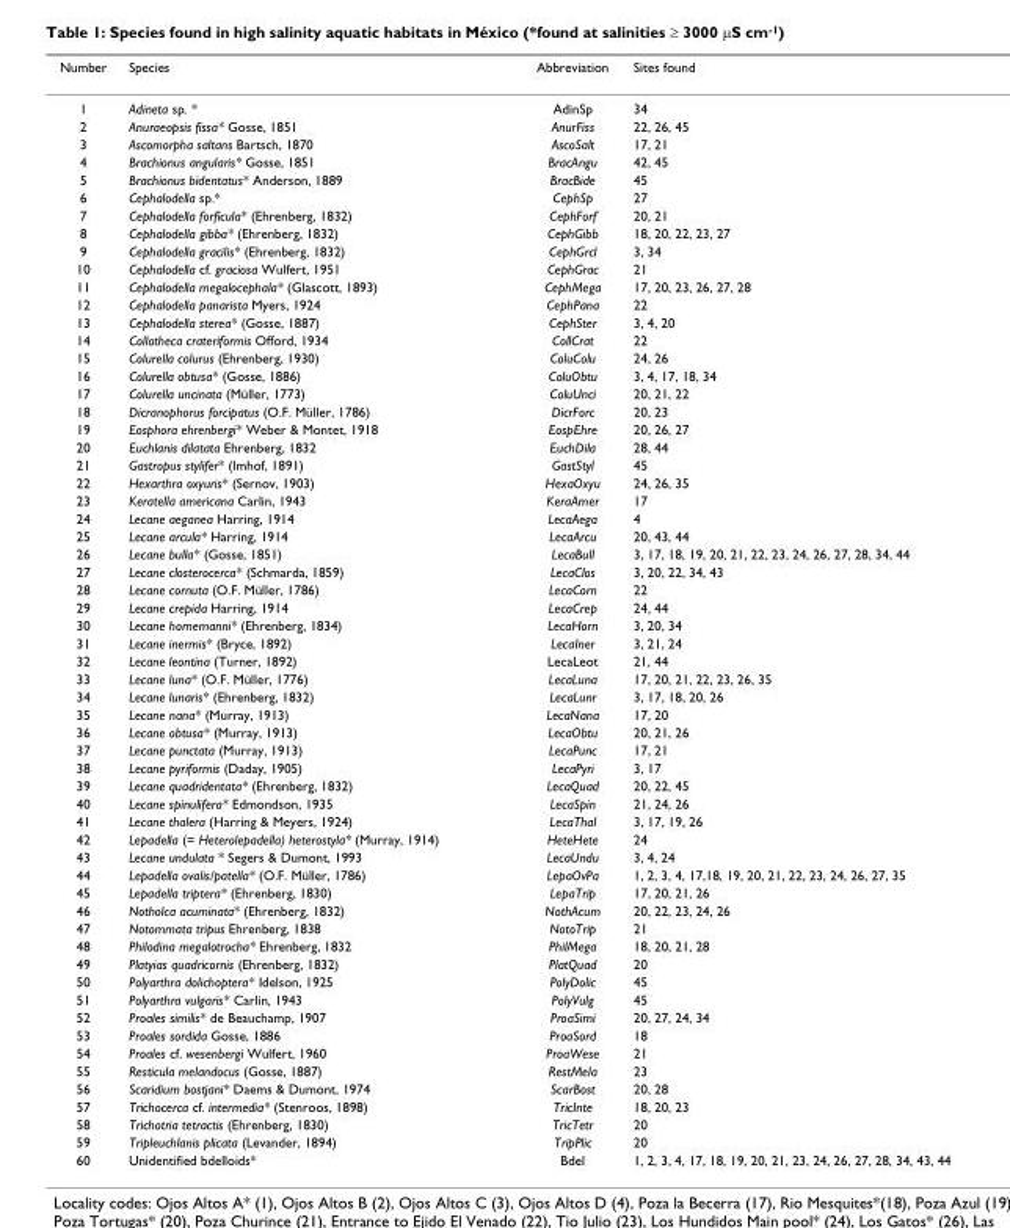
<table><thead><tr><td>Number</td><td>Species</td><td>Abbreviation</td><td>Sites found</td></tr></thead><tbody><tr><td>1</td><td>Adineta sp. *</td><td>AdinSp</td><td>34</td></tr><tr><td>2</td><td>Anuraeopsis fissa* Gosse, 1851</td><td>AnurFiss</td><td>22, 26, 45</td></tr><tr><td>3</td><td>Ascomorpha saltans Bartsch, 1870</td><td>AscoSalt</td><td>17, 21</td></tr><tr><td>4</td><td>Brachionus angularis* Gosse, 1851</td><td>BracAngu</td><td>42, 45</td></tr><tr><td>5</td><td>Brachionus bidentatus* Anderson, 1889</td><td>BracBide</td><td>45</td></tr><tr><td>6</td><td>Cephalodella sp.*</td><td>CephSp</td><td>27</td></tr><tr><td>7</td><td>Cephalodella forficula* (Ehrenberg, 1832)</td><td>CephForf</td><td>20, 21</td></tr><tr><td>8</td><td>Cephalodella gibba* (Ehrenberg, 1832)</td><td>CephGibb</td><td>18, 20, 22, 23, 27</td></tr><tr><td>9</td><td>Cephalodella gracilis* (Ehrenberg, 1832)</td><td>CephGrcl</td><td>3, 34</td></tr><tr><td>10</td><td>Cephalodella cf. graciosa Wulfert, 1951</td><td>CephGrac</td><td>21</td></tr><tr><td>11</td><td>Cephalodella megalocephala* (Glascott, 1893)</td><td>CephMega</td><td>17, 20, 23, 26, 27, 28</td></tr><tr><td>12</td><td>Cephalodella panarista Myers, 1924</td><td>CephPana</td><td>22</td></tr><tr><td>13</td><td>Cephalodella sterea* (Gosse, 1887)</td><td>CephSter</td><td>3, 4, 20</td></tr><tr><td>14</td><td>Collotheca crateriformis Offord, 1934</td><td>CollCrat</td><td>22</td></tr><tr><td>15</td><td>Colurella colurus (Ehrenberg, 1930)</td><td>ColuColu</td><td>24, 26</td></tr><tr><td>16</td><td>Colurella obtusa* (Gosse, 1886)</td><td>ColuObtu</td><td>3, 4, 17, 18, 34</td></tr><tr><td>17</td><td>Colurella uncinata (Müller, 1773)</td><td>ColuUnci</td><td>20, 21, 22</td></tr><tr><td>18</td><td>Dicranophorus forcipatus (O.F. Müller, 1786)</td><td>DicrForc</td><td>20, 23</td></tr><tr><td>19</td><td>Eosphora ehrenbergi* Weber &amp; Montet, 1918</td><td>EospEhre</td><td>20, 26, 27</td></tr><tr><td>20</td><td>Euchlanis dilatata Ehrenberg, 1832</td><td>EuchDila</td><td>28, 44</td></tr><tr><td>21</td><td>Gastropus stylifer* (Imhof, 1891)</td><td>GastStyl</td><td>45</td></tr><tr><td>22</td><td>Hexarthra oxyuris* (Sernov, 1903)</td><td>HexaOxyu</td><td>24, 26, 35</td></tr><tr><td>23</td><td>Keratella americana Carlin, 1943</td><td>KeraAmer</td><td>17</td></tr><tr><td>24</td><td>Lecane aeganea Harring, 1914</td><td>LecaAega</td><td>4</td></tr><tr><td>25</td><td>Lecane arcula* Harring, 1914</td><td>LecaArcu</td><td>20, 43, 44</td></tr><tr><td>26</td><td>Lecane bulla* (Gosse, 1851)</td><td>LecaBull</td><td>3, 17, 18, 19, 20, 21, 22, 23, 24, 26, 27, 28, 34, 44</td></tr><tr><td>27</td><td>Lecane closterocerca* (Schmarda, 1859)</td><td>LecaClos</td><td>3, 20, 22, 34, 43</td></tr><tr><td>28</td><td>Lecane cornuta (O.F. Müller, 1786)</td><td>LecaCorn</td><td>22</td></tr><tr><td>29</td><td>Lecane crepida Harring, 1914</td><td>LecaCrep</td><td>24, 44</td></tr><tr><td>30</td><td>Lecane hornemanni* (Ehrenberg, 1834)</td><td>LecaHorn</td><td>3, 20, 34</td></tr><tr><td>31</td><td>Lecane inermis* (Bryce, 1892)</td><td>LecaIner</td><td>3, 21, 24</td></tr><tr><td>32</td><td>Lecane leontina (Turner, 1892)</td><td>LecaLeot</td><td>21, 44</td></tr><tr><td>33</td><td>Lecane luna* (O.F. Müller, 1776)</td><td>LecaLuna</td><td>17, 20, 21, 22, 23, 26, 35</td></tr><tr><td>34</td><td>Lecane lunaris* (Ehrenberg, 1832)</td><td>LecaLunr</td><td>3, 17, 18, 20, 26</td></tr><tr><td>35</td><td>Lecane nana* (Murray, 1913)</td><td>LecaNana</td><td>17, 20</td></tr><tr><td>36</td><td>Lecane obtusa* (Murray, 1913)</td><td>LecaObtu</td><td>20, 21, 26</td></tr><tr><td>37</td><td>Lecane punctata (Murray, 1913)</td><td>LecaPunc</td><td>17, 21</td></tr><tr><td>38</td><td>Lecane pyriformis (Daday, 1905)</td><td>LecaPyri</td><td>3, 17</td></tr><tr><td>39</td><td>Lecane quadridentata* (Ehrenberg, 1832)</td><td>LecaQuad</td><td>20, 22, 45</td></tr><tr><td>40</td><td>Lecane spinulifera* Edmondson, 1935</td><td>LecaSpin</td><td>21, 24, 26</td></tr><tr><td>41</td><td>Lecane thalera (Harring &amp; Meyers, 1924)</td><td>LecaThal</td><td>3, 17, 19, 26</td></tr><tr><td>42</td><td>Lepadella (= Heterolepadella) heterostyla* (Murray, 1914)</td><td>HeteHete</td><td>24</td></tr><tr><td>43</td><td>Lecane undulata * Segers &amp; Dumont, 1993</td><td>LecaUndu</td><td>3, 4, 24</td></tr><tr><td>44</td><td>Lepadella ovalis/patella* (O.F. Müller, 1786)</td><td>LepaOvPa</td><td>1, 2, 3, 4, 17,18, 19, 20, 21, 22, 23, 24, 26, 27, 35</td></tr><tr><td>45</td><td>Lepadella triptera* (Ehrenberg, 1830)</td><td>LepaTrip</td><td>17, 20, 21, 26</td></tr><tr><td>46</td><td>Notholca acuminata* (Ehrenberg, 1832)</td><td>NothAcum</td><td>20, 22, 23, 24, 26</td></tr><tr><td>47</td><td>Notommata tripus Ehrenberg, 1838</td><td>NotoTrip</td><td>21</td></tr><tr><td>48</td><td>Philodina megalotrocha* Ehrenberg, 1832</td><td>PhilMega</td><td>18, 20, 21, 28</td></tr><tr><td>49</td><td>Platyias quadricornis (Ehrenberg, 1832)</td><td>PlatQuad</td><td>20</td></tr><tr><td>50</td><td>Polyarthra dolichoptera* Idelson, 1925</td><td>PolyDolic</td><td>45</td></tr><tr><td>51</td><td>Polyarthra vulgaris* Carlin, 1943</td><td>PolyVulg</td><td>45</td></tr><tr><td>52</td><td>Proales similis* de Beauchamp, 1907</td><td>ProaSimi</td><td>20, 27, 24, 34</td></tr><tr><td>53</td><td>Proales sordida Gosse, 1886</td><td>ProaSord</td><td>18</td></tr><tr><td>54</td><td>Proales cf. wesenbergi Wulfert, 1960</td><td>ProaWese</td><td>21</td></tr><tr><td>55</td><td>Resticula melandocus (Gosse, 1887)</td><td>RestMela</td><td>23</td></tr><tr><td>56</td><td>Scaridium bostjani* Daems &amp; Dumont, 1974</td><td>ScarBost</td><td>20, 28</td></tr><tr><td>57</td><td>Trichocerca cf. intermedia* (Stenroos, 1898)</td><td>TricInte</td><td>18, 20, 23</td></tr><tr><td>58</td><td>Trichotria tetractis (Ehrenberg, 1830)</td><td>TricTetr</td><td>20</td></tr><tr><td>59</td><td>Tripleuchlanis plicata (Levander, 1894)</td><td>TripPlic</td><td>20</td></tr><tr><td>60</td><td>Unidentified bdelloids*</td><td>Bdel</td><td>1, 2, 3, 4, 17, 18, 19, 20, 21, 23, 24, 26, 27, 28, 34, 43, 44</td></tr></tbody></table>